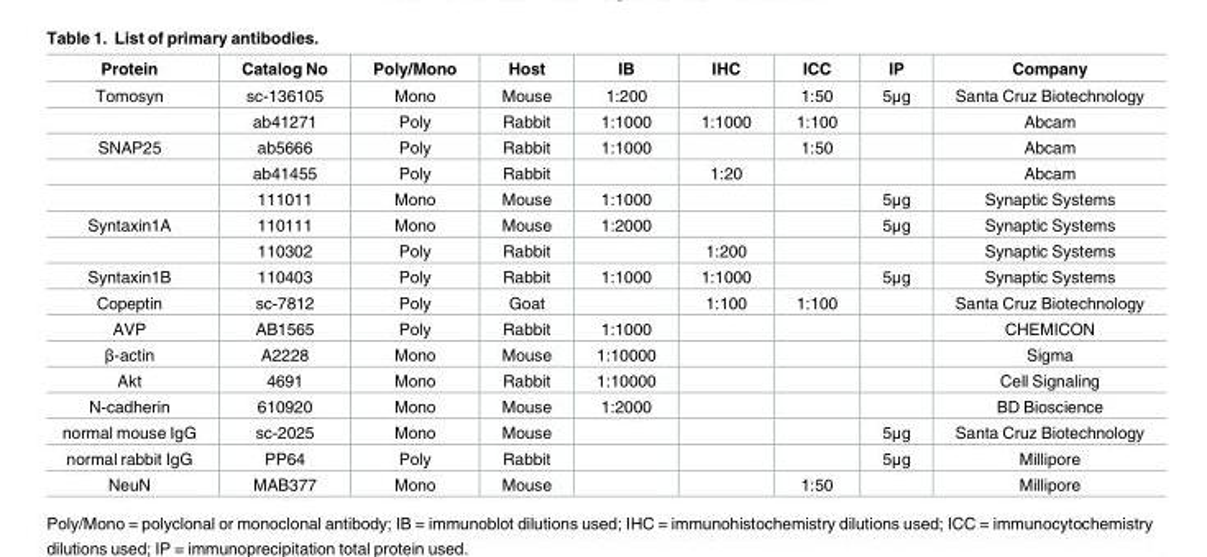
<table><thead><tr><td>Protein</td><td>Catalog No</td><td>Poly/Mono</td><td>Host</td><td>IB</td><td>IHC</td><td>ICC</td><td>IP</td><td>Company</td></tr></thead><tbody><tr><td rowspan="2">Tomosyn</td><td>sc-136105</td><td>Mono</td><td>Mouse</td><td>1:200</td><td></td><td>1:50</td><td>5μg</td><td>Santa Cruz Biotechnology</td></tr><tr><td>ab41271</td><td>Poly</td><td>Rabbit</td><td>1:1000</td><td>1:1000</td><td>1:100</td><td></td><td>Abcam</td></tr><tr><td rowspan="3">SNAP25</td><td>ab5666</td><td>Poly</td><td>Rabbit</td><td>1:1000</td><td></td><td>1:50</td><td></td><td>Abcam</td></tr><tr><td>ab41455</td><td>Poly</td><td>Rabbit</td><td></td><td>1:20</td><td></td><td></td><td>Abcam</td></tr><tr><td>111011</td><td>Mono</td><td>Mouse</td><td>1:1000</td><td></td><td></td><td>5μg</td><td>Synaptic Systems</td></tr><tr><td rowspan="2">Syntaxin1A</td><td>110111</td><td>Mono</td><td>Mouse</td><td>1:2000</td><td></td><td></td><td>5μg</td><td>Synaptic Systems</td></tr><tr><td>110302</td><td>Poly</td><td>Rabbit</td><td></td><td>1:200</td><td></td><td></td><td>Synaptic Systems</td></tr><tr><td>Syntaxin1B</td><td>110403</td><td>Poly</td><td>Rabbit</td><td>1:1000</td><td>1:1000</td><td></td><td>5μg</td><td>Synaptic Systems</td></tr><tr><td>Copeptin</td><td>sc-7812</td><td>Poly</td><td>Goat</td><td></td><td>1:100</td><td>1:100</td><td></td><td>Santa Cruz Biotechnology</td></tr><tr><td>AVP</td><td>AB1565</td><td>Poly</td><td>Rabbit</td><td>1:1000</td><td></td><td></td><td></td><td>CHEMICON</td></tr><tr><td>β-actin</td><td>A2228</td><td>Mono</td><td>Mouse</td><td>1:10000</td><td></td><td></td><td></td><td>Sigma</td></tr><tr><td>Akt</td><td>4691</td><td>Mono</td><td>Rabbit</td><td>1:10000</td><td></td><td></td><td></td><td>Cell Signaling</td></tr><tr><td>N-cadherin</td><td>610920</td><td>Mono</td><td>Mouse</td><td>1:2000</td><td></td><td></td><td></td><td>BD Bioscience</td></tr><tr><td>normal mouse IgG</td><td>sc-2025</td><td>Mono</td><td>Mouse</td><td></td><td></td><td></td><td>5μg</td><td>Santa Cruz Biotechnology</td></tr><tr><td>normal rabbit IgG</td><td>PP64</td><td>Poly</td><td>Rabbit</td><td></td><td></td><td></td><td>5μg</td><td>Millipore</td></tr><tr><td>NeuN</td><td>MAB377</td><td>Mono</td><td>Mouse</td><td></td><td></td><td>1:50</td><td></td><td>Millipore</td></tr></tbody></table>